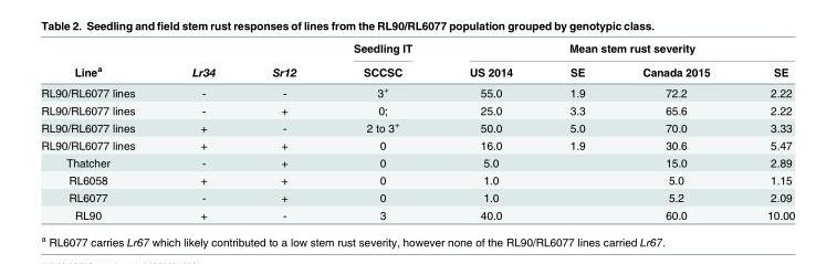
<table><thead><tr><td rowspan="2">Line<sup>a</sup></td><td rowspan="2">Lr34</td><td rowspan="2">Sr12</td><td rowspan="2">Seedling IT SCCSC</td><td colspan="4">Mean stem rust severity</td></tr><tr><td>US 2014</td><td>SE</td><td>Canada 2015</td><td>SE</td></tr></thead><tbody><tr><td>RL90/RL6077 lines</td><td>-</td><td>-</td><td>3<sup>+</sup></td><td>55.0</td><td>1.9</td><td>72.2</td><td>2.22</td></tr><tr><td>RL90/RL6077 lines</td><td>-</td><td>+</td><td>0;</td><td>25.0</td><td>3.3</td><td>65.6</td><td>2.22</td></tr><tr><td>RL90/RL6077 lines</td><td>+</td><td>-</td><td>2 to 3<sup>+</sup></td><td>50.0</td><td>5.0</td><td>70.0</td><td>3.33</td></tr><tr><td>RL90/RL6077 lines</td><td>+</td><td>+</td><td>0</td><td>16.0</td><td>1.9</td><td>30.6</td><td>5.47</td></tr><tr><td>Thatcher</td><td>-</td><td>+</td><td>0</td><td>5.0</td><td></td><td>15.0</td><td>2.89</td></tr><tr><td>RL6058</td><td>+</td><td>+</td><td>0</td><td>1.0</td><td></td><td>5.0</td><td>1.15</td></tr><tr><td>RL6077</td><td>-</td><td>+</td><td>0</td><td>1.0</td><td></td><td>5.2</td><td>2.09</td></tr><tr><td>RL90</td><td>+</td><td>-</td><td>3</td><td>40.0</td><td></td><td>60.0</td><td>10.00</td></tr></tbody></table>